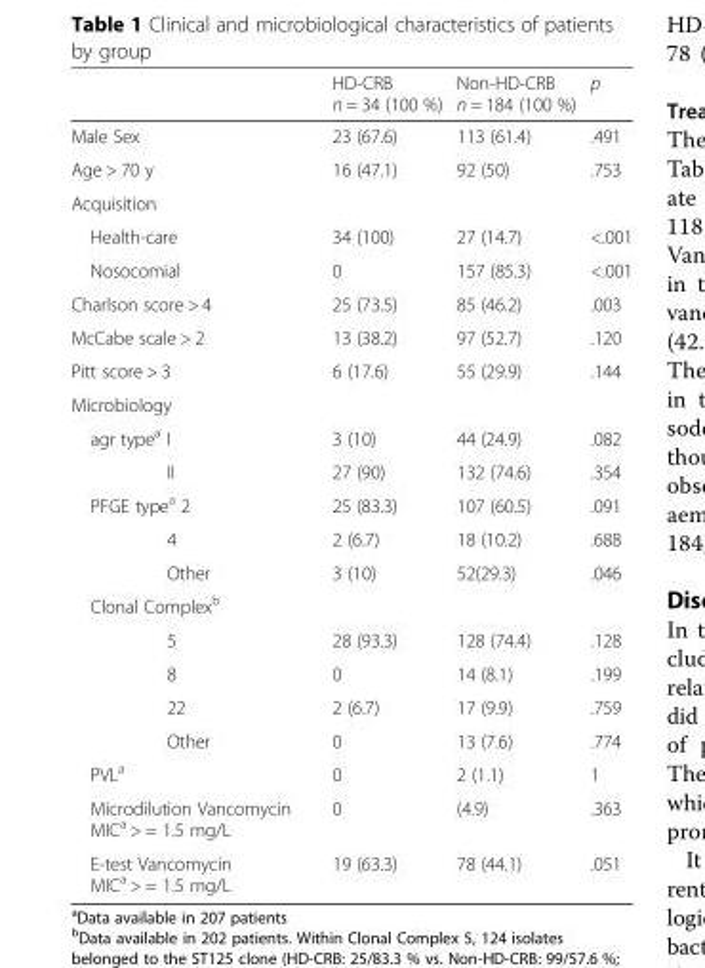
<table><thead><tr><td></td><td>HD-CRB n = 34 (100 %)</td><td>Non-HD-CRB n = 184 (100 %)</td><td>p</td></tr></thead><tbody><tr><td>Male Sex</td><td>23 (67.6)</td><td>113 (61.4)</td><td>.491</td></tr><tr><td>Age &gt; 70 y</td><td>16 (47.1)</td><td>92 (50)</td><td>.753</td></tr><tr><td colspan="4">Acquisition</td></tr><tr><td>Health-care</td><td>34 (100)</td><td>27 (14.7)</td><td>&lt;.001</td></tr><tr><td>Nosocomial</td><td>0</td><td>157 (85.3)</td><td>&lt;.001</td></tr><tr><td>Charlson score &gt; 4</td><td>25 (73.5)</td><td>85 (46.2)</td><td>.003</td></tr><tr><td>McCabe scale &gt; 2</td><td>13 (38.2)</td><td>97 (52.7)</td><td>.120</td></tr><tr><td>Pitt score &gt; 3</td><td>6 (17.6)</td><td>55 (29.9)</td><td>.144</td></tr><tr><td colspan="4">Microbiology</td></tr><tr><td>agr type<sup>a</sup> I</td><td>3 (10)</td><td>44 (24.9)</td><td>.082</td></tr><tr><td>II</td><td>27 (90)</td><td>132 (74.6)</td><td>.354</td></tr><tr><td>PFGE type<sup>a</sup> 2</td><td>25 (83.3)</td><td>107 (60.5)</td><td>.091</td></tr><tr><td>4</td><td>2 (6.7)</td><td>18 (10.2)</td><td>.688</td></tr><tr><td>Other</td><td>3 (10)</td><td>52(29.3)</td><td>.046</td></tr><tr><td colspan="4">Clonal Complex<sup>b</sup></td></tr><tr><td>5</td><td>28 (93.3)</td><td>128 (74.4)</td><td>.128</td></tr><tr><td>8</td><td>0</td><td>14 (8.1)</td><td>.199</td></tr><tr><td>22</td><td>2 (6.7)</td><td>17 (9.9)</td><td>.759</td></tr><tr><td>Other</td><td>0</td><td>13 (7.6)</td><td>.774</td></tr><tr><td>PVL<sup>a</sup></td><td>0</td><td>2 (1.1)</td><td>1</td></tr><tr><td>Microdilution Vancomycin MIC<sup>a</sup> &gt; = 1.5 mg/L</td><td>0</td><td>(4.9)</td><td>.363</td></tr><tr><td>E-test Vancomycin MIC<sup>a</sup> &gt; = 1.5 mg/L</td><td>19 (63.3)</td><td>78 (44.1)</td><td>.051</td></tr></tbody></table>